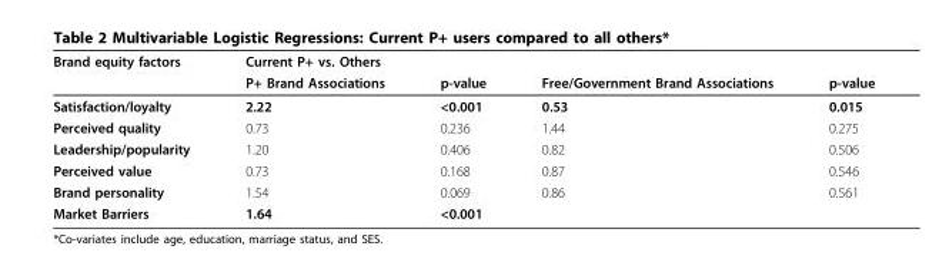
<table><thead><tr><td rowspan="2">Brand equity factors</td><td colspan="4">Current P+ vs. Others</td></tr><tr><td>P+ Brand Associations</td><td>p-value</td><td>Free/Government Brand Associations</td><td>p-value</td></tr></thead><tbody><tr><td>Satisfaction/loyalty</td><td>2.22</td><td>&lt;0.001</td><td>0.53</td><td>0.015</td></tr><tr><td>Perceived quality</td><td>0.73</td><td>0.236</td><td>1.44</td><td>0.275</td></tr><tr><td>Leadership/popularity</td><td>1.20</td><td>0.406</td><td>0.82</td><td>0.506</td></tr><tr><td>Perceived value</td><td>0.73</td><td>0.168</td><td>0.87</td><td>0.546</td></tr><tr><td>Brand personality</td><td>1.54</td><td>0.069</td><td>0.86</td><td>0.561</td></tr><tr><td>Market Barriers</td><td>1.64</td><td>&lt;0.001</td><td></td><td></td></tr></tbody></table>